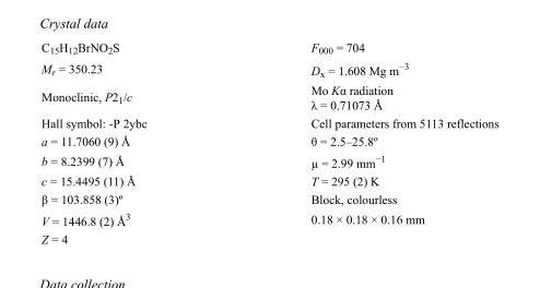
<table><tbody><tr><td>C<sub>15</sub>H<sub>12</sub>BrNO<sub>2</sub>S</td><td>F<sub>000</sub> = 704</td></tr><tr><td>M<sub>r</sub> = 350.23</td><td>D<sub>x</sub> = 1.608 Mg m<sup>−3</sup></td></tr><tr><td>Monoclinic, P2<sub>1</sub>/c</td><td>Mo Kα radiation λ = 0.71073 Å</td></tr><tr><td>Hall symbol: -P 2ybc</td><td>Cell parameters from 5113 reflections</td></tr><tr><td>a = 11.7060 (9) Å</td><td>θ = 2.5–25.8º</td></tr><tr><td>b = 8.2399 (7) Å</td><td>µ = 2.99 mm<sup>−1</sup></td></tr><tr><td>c = 15.4495 (11) Å</td><td>T = 295 (2) K</td></tr><tr><td>β = 103.858 (3)º</td><td>Block, colourless</td></tr><tr><td>V = 1446.8 (2) Å<sup>3</sup></td><td>0.18 × 0.18 × 0.16 mm</td></tr><tr><td>Z = 4</td><td></td></tr></tbody></table>